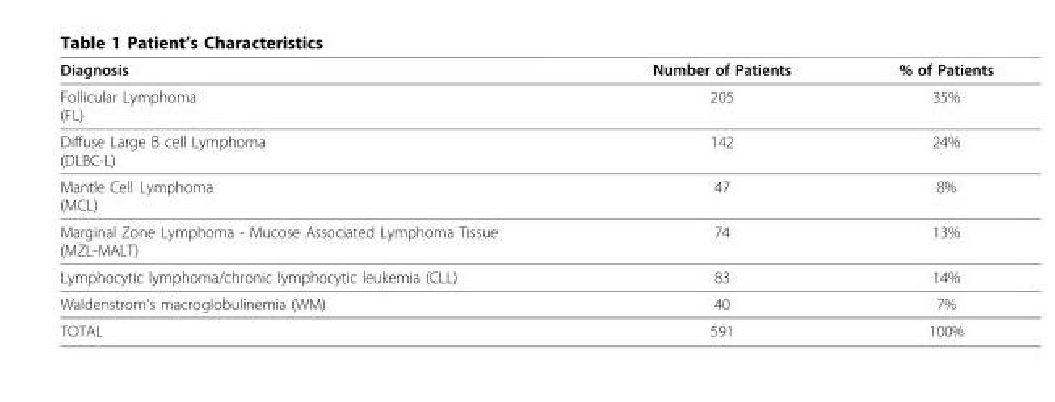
<table><thead><tr><td>Diagnosis</td><td>Number of Patients</td><td>% of Patients</td></tr></thead><tbody><tr><td>Follicular Lymphoma (FL)</td><td>205</td><td>35%</td></tr><tr><td>Diffuse Large B cell Lymphoma (DLBC-L)</td><td>142</td><td>24%</td></tr><tr><td>Mantle Cell Lymphoma (MCL)</td><td>47</td><td>8%</td></tr><tr><td>Marginal Zone Lymphoma - Mucose Associated Lymphoma Tissue (MZL-MALT)</td><td>74</td><td>13%</td></tr><tr><td>Lymphocytic lymphoma/chronic lymphocytic leukemia (CLL)</td><td>83</td><td>14%</td></tr><tr><td>Waldenstrom’s macroglobulinemia (WM)</td><td>40</td><td>7%</td></tr><tr><td>TOTAL</td><td>591</td><td>100%</td></tr></tbody></table>